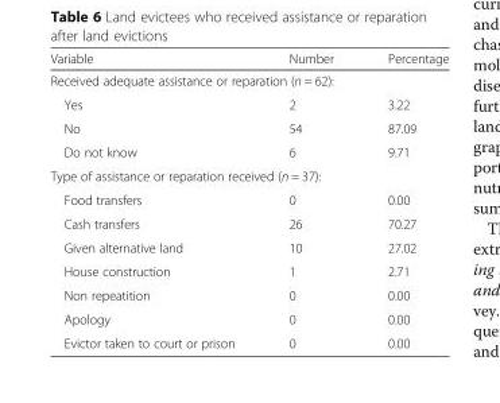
<table><thead><tr><td>Variable</td><td>Number</td><td>Percentage</td></tr></thead><tbody><tr><td colspan="3">Received adequate assistance or reparation (n = 62):</td></tr><tr><td>Yes</td><td>2</td><td>3.22</td></tr><tr><td>No</td><td>54</td><td>87.09</td></tr><tr><td>Do not know</td><td>6</td><td>9.71</td></tr><tr><td colspan="3">Type of assistance or reparation received (n = 37):</td></tr><tr><td>Food transfers</td><td>0</td><td>0.00</td></tr><tr><td>Cash transfers</td><td>26</td><td>70.27</td></tr><tr><td>Given alternative land</td><td>10</td><td>27.02</td></tr><tr><td>House construction</td><td>1</td><td>2.71</td></tr><tr><td>Non repeatition</td><td>0</td><td>0.00</td></tr><tr><td>Apology</td><td>0</td><td>0.00</td></tr><tr><td>Evictor taken to court or prison</td><td>0</td><td>0.00</td></tr></tbody></table>